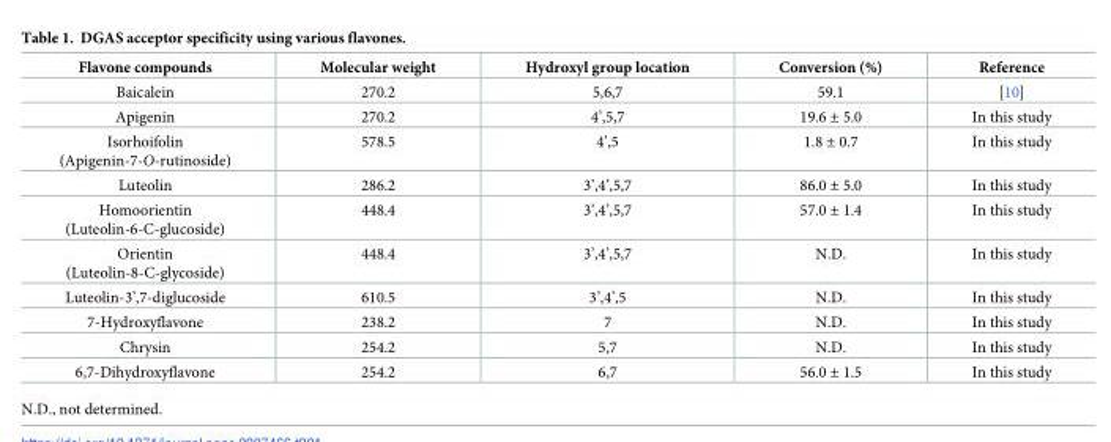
<table><thead><tr><td>Flavone compounds</td><td>Molecular weight</td><td>Hydroxyl group location</td><td>Conversion (%)</td><td>Reference</td></tr></thead><tbody><tr><td>Baicalein</td><td>270.2</td><td>5,6,7</td><td>59.1</td><td>[10]</td></tr><tr><td>Apigenin</td><td>270.2</td><td>4’,5,7</td><td>19.6 ± 5.0</td><td>In this study</td></tr><tr><td>Isorhoifolin (Apigenin-7-O-rutinoside)</td><td>578.5</td><td>4’,5</td><td>1.8 ± 0.7</td><td>In this study</td></tr><tr><td>Luteolin</td><td>286.2</td><td>3’,4’,5,7</td><td>86.0 ± 5.0</td><td>In this study</td></tr><tr><td>Homoorientin (Luteolin-6-C-glucoside)</td><td>448.4</td><td>3’,4’,5,7</td><td>57.0 ± 1.4</td><td>In this study</td></tr><tr><td>Orientin (Luteolin-8-C-glycoside)</td><td>448.4</td><td>3’,4’,5,7</td><td>N.D.</td><td>In this study</td></tr><tr><td>Luteolin-3’,7-diglucoside</td><td>610.5</td><td>3’,4’,5</td><td>N.D.</td><td>In this study</td></tr><tr><td>7-Hydroxyflavone</td><td>238.2</td><td>7</td><td>N.D.</td><td>In this study</td></tr><tr><td>Chrysin</td><td>254.2</td><td>5,7</td><td>N.D.</td><td>In this study</td></tr><tr><td>6,7-Dihydroxyflavone</td><td>254.2</td><td>6,7</td><td>56.0 ± 1.5</td><td>In this study</td></tr></tbody></table>